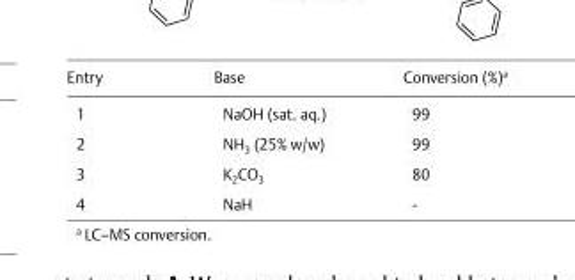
<table><thead><tr><td>Entry</td><td>Base</td><td>Conversion (%)<sup>a</sup></td></tr></thead><tbody><tr><td>1</td><td>NaOH (sat. aq.)</td><td>99</td></tr><tr><td>2</td><td>NH<sub>3</sub> (25% w/w)</td><td>99</td></tr><tr><td>3</td><td>K<sub>2</sub>CO<sub>3</sub></td><td>80</td></tr><tr><td>4</td><td>NaH</td><td>-</td></tr></tbody></table>